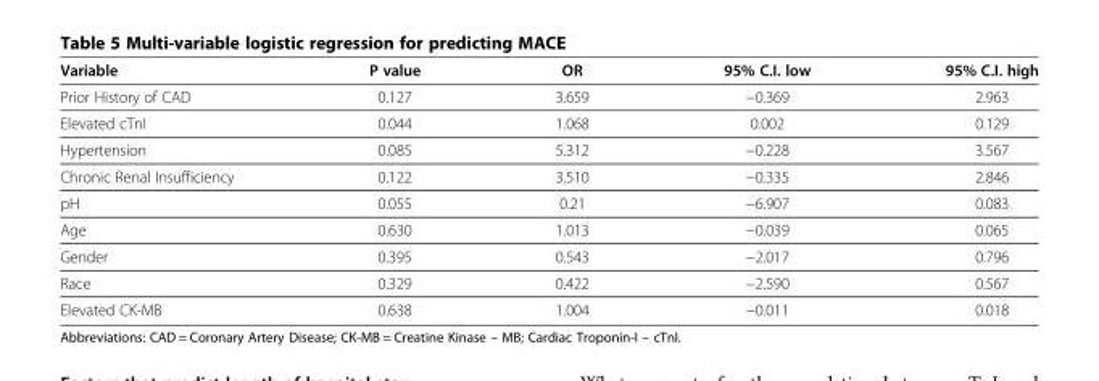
<table><thead><tr><td>Variable</td><td>P value</td><td>OR</td><td>95% C.I. low</td><td>95% C.I. high</td></tr></thead><tbody><tr><td>Prior History of CAD</td><td>0.127</td><td>3.659</td><td>−0.369</td><td>2.963</td></tr><tr><td>Elevated cTnI</td><td>0.044</td><td>1.068</td><td>0.002</td><td>0.129</td></tr><tr><td>Hypertension</td><td>0.085</td><td>5.312</td><td>−0.228</td><td>3.567</td></tr><tr><td>Chronic Renal Insufficiency</td><td>0.122</td><td>3.510</td><td>−0.335</td><td>2.846</td></tr><tr><td>pH</td><td>0.055</td><td>0.21</td><td>−6.907</td><td>0.083</td></tr><tr><td>Age</td><td>0.630</td><td>1.013</td><td>−0.039</td><td>0.065</td></tr><tr><td>Gender</td><td>0.395</td><td>0.543</td><td>−2.017</td><td>0.796</td></tr><tr><td>Race</td><td>0.329</td><td>0.422</td><td>−2.590</td><td>0.567</td></tr><tr><td>Elevated CK-MB</td><td>0.638</td><td>1.004</td><td>−0.011</td><td>0.018</td></tr></tbody></table>